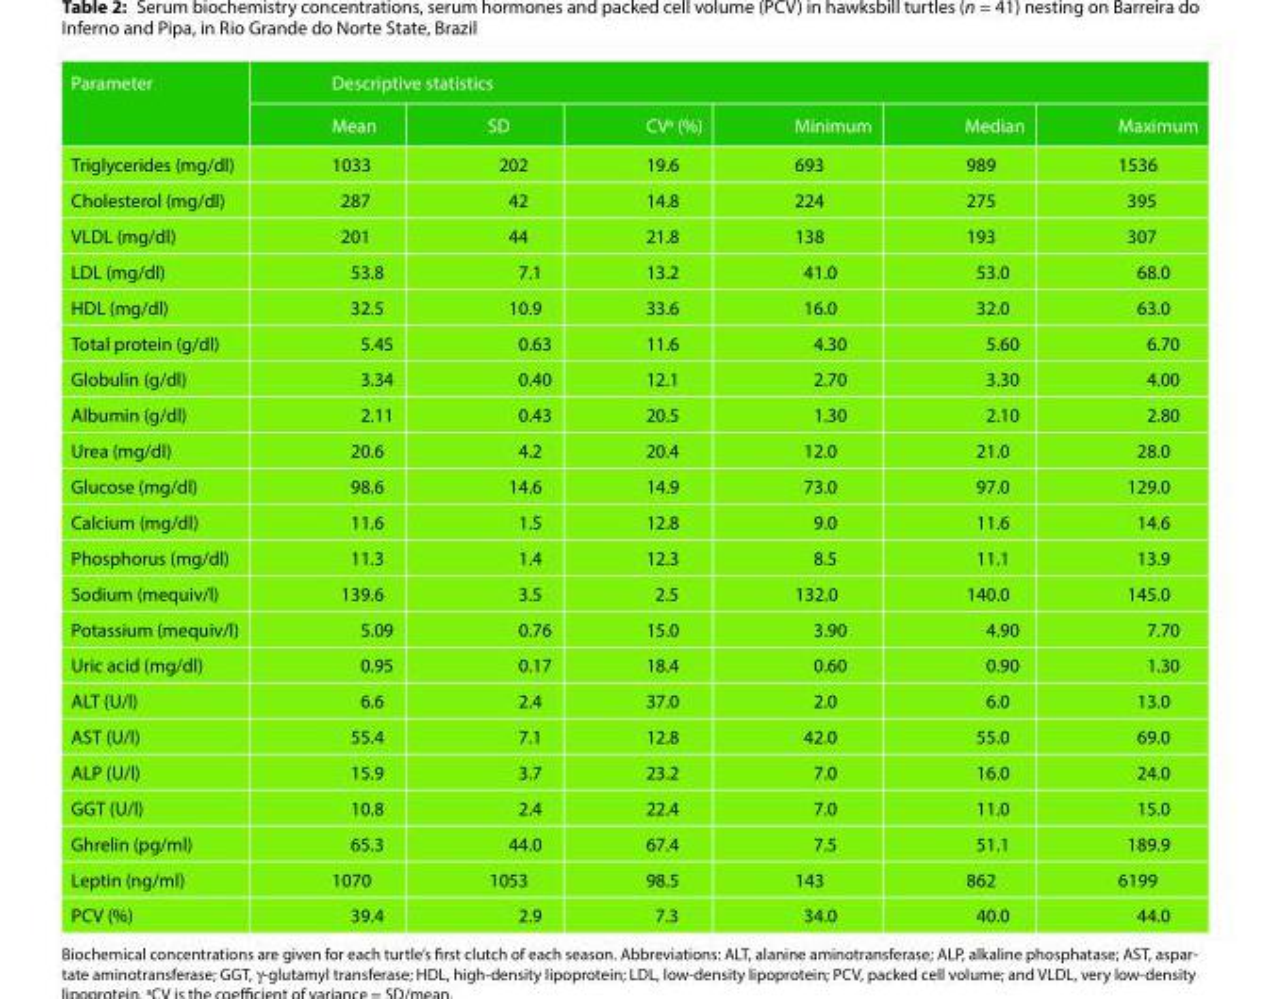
<table><thead><tr><td rowspan="2">Parameter</td><td colspan="6">Descriptive statistics</td></tr><tr><td>Mean</td><td>SD</td><td>CV<sup>a</sup> (%)</td><td>Minimum</td><td>Median</td><td>Maximum</td></tr></thead><tbody><tr><td>Triglycerides (mg/dl)</td><td>1033</td><td>202</td><td>19.6</td><td>693</td><td>989</td><td>1536</td></tr><tr><td>Cholesterol (mg/dl)</td><td>287</td><td>42</td><td>14.8</td><td>224</td><td>275</td><td>395</td></tr><tr><td>VLDL (mg/dl)</td><td>201</td><td>44</td><td>21.8</td><td>138</td><td>193</td><td>307</td></tr><tr><td>LDL (mg/dl)</td><td>53.8</td><td>7.1</td><td>13.2</td><td>41.0</td><td>53.0</td><td>68.0</td></tr><tr><td>HDL (mg/dl)</td><td>32.5</td><td>10.9</td><td>33.6</td><td>16.0</td><td>32.0</td><td>63.0</td></tr><tr><td>Total protein (g/dl)</td><td>5.45</td><td>0.63</td><td>11.6</td><td>4.30</td><td>5.60</td><td>6.70</td></tr><tr><td>Globulin (g/dl)</td><td>3.34</td><td>0.40</td><td>12.1</td><td>2.70</td><td>3.30</td><td>4.00</td></tr><tr><td>Albumin (g/dl)</td><td>2.11</td><td>0.43</td><td>20.5</td><td>1.30</td><td>2.10</td><td>2.80</td></tr><tr><td>Urea (mg/dl)</td><td>20.6</td><td>4.2</td><td>20.4</td><td>12.0</td><td>21.0</td><td>28.0</td></tr><tr><td>Glucose (mg/dl)</td><td>98.6</td><td>14.6</td><td>14.9</td><td>73.0</td><td>97.0</td><td>129.0</td></tr><tr><td>Calcium (mg/dl)</td><td>11.6</td><td>1.5</td><td>12.8</td><td>9.0</td><td>11.6</td><td>14.6</td></tr><tr><td>Phosphorus (mg/dl)</td><td>11.3</td><td>1.4</td><td>12.3</td><td>8.5</td><td>11.1</td><td>13.9</td></tr><tr><td>Sodium (mequiv/l)</td><td>139.6</td><td>3.5</td><td>2.5</td><td>132.0</td><td>140.0</td><td>145.0</td></tr><tr><td>Potassium (mequiv/l)</td><td>5.09</td><td>0.76</td><td>15.0</td><td>3.90</td><td>4.90</td><td>7.70</td></tr><tr><td>Uric acid (mg/dl)</td><td>0.95</td><td>0.17</td><td>18.4</td><td>0.60</td><td>0.90</td><td>1.30</td></tr><tr><td>ALT (U/l)</td><td>6.6</td><td>2.4</td><td>37.0</td><td>2.0</td><td>6.0</td><td>13.0</td></tr><tr><td>AST (U/l)</td><td>55.4</td><td>7.1</td><td>12.8</td><td>42.0</td><td>55.0</td><td>69.0</td></tr><tr><td>ALP (U/l)</td><td>15.9</td><td>3.7</td><td>23.2</td><td>7.0</td><td>16.0</td><td>24.0</td></tr><tr><td>GGT (U/l)</td><td>10.8</td><td>2.4</td><td>22.4</td><td>7.0</td><td>11.0</td><td>15.0</td></tr><tr><td>Ghrelin (pg/ml)</td><td>65.3</td><td>44.0</td><td>67.4</td><td>7.5</td><td>51.1</td><td>189.9</td></tr><tr><td>Leptin (ng/ml)</td><td>1070</td><td>1053</td><td>98.5</td><td>143</td><td>862</td><td>6199</td></tr><tr><td>PCV (%)</td><td>39.4</td><td>2.9</td><td>7.3</td><td>34.0</td><td>40.0</td><td>44.0</td></tr></tbody></table>